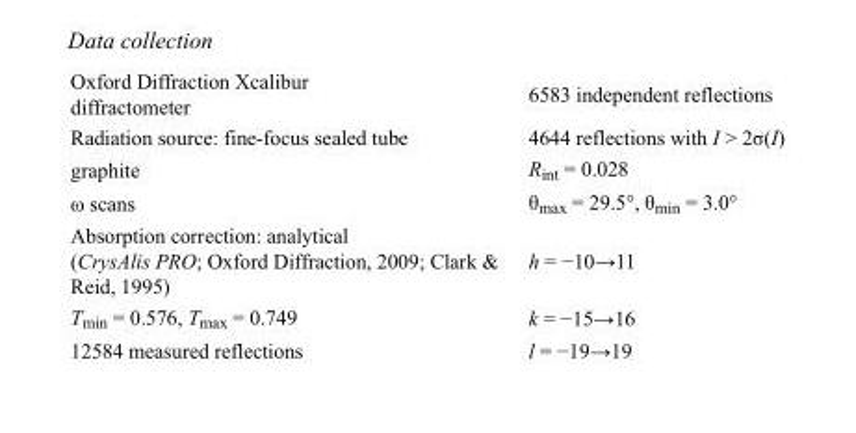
<table><tbody><tr><td>Oxford Diffraction Xcalibur diffractometer</td><td>6583 independent reflections</td></tr><tr><td>Radiation source: fine-focus sealed tube</td><td>4644 reflections with I &gt; 2σ(I)</td></tr><tr><td>graphite</td><td>R<sub>int</sub> = 0.028</td></tr><tr><td>ω scans</td><td>θ<sub>max</sub> = 29.5°, θ<sub>min</sub> = 3.0°</td></tr><tr><td>Absorption correction: analytical (CrysAlis PRO; Oxford Diffraction, 2009; Clark &amp; Reid, 1995)</td><td>h = −10→11</td></tr><tr><td>T<sub>min</sub> = 0.576, T<sub>max</sub> = 0.749</td><td>k = −15→16</td></tr><tr><td>12584 measured reflections</td><td>l = −19→19</td></tr></tbody></table>